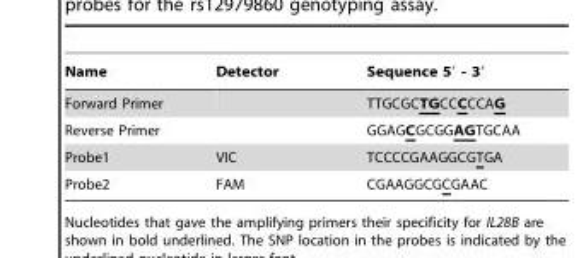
<table><thead><tr><td>Name</td><td>Detector</td><td>Sequence 5′ - 3′</td></tr></thead><tbody><tr><td>Forward Primer</td><td></td><td>TTGCGCTGCCCCCAG</td></tr><tr><td>Reverse Primer</td><td></td><td>GGAGCGCGGAGTGCAA</td></tr><tr><td>Probe1</td><td>VIC</td><td>TCCCCGAAGGCGTGA</td></tr><tr><td>Probe2</td><td>FAM</td><td>CGAAGGCGCGAAC</td></tr></tbody></table>